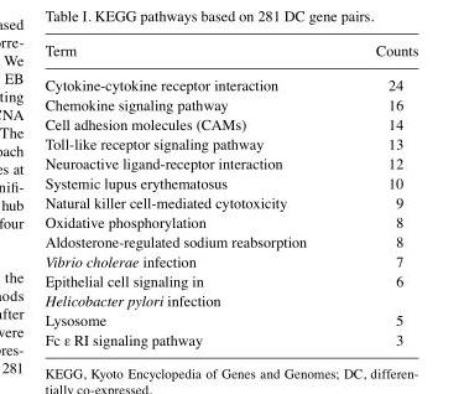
<table><thead><tr><td>Term</td><td>Counts</td></tr></thead><tbody><tr><td>Cytokine-cytokine receptor interaction</td><td>24</td></tr><tr><td>Chemokine signaling pathway</td><td>16</td></tr><tr><td>Cell adhesion molecules (CAMs)</td><td>14</td></tr><tr><td>Toll-like receptor signaling pathway</td><td>13</td></tr><tr><td>Neuroactive ligand-receptor interaction</td><td>12</td></tr><tr><td>Systemic lupus erythematosus</td><td>10</td></tr><tr><td>Natural killer cell-mediated cytotoxicity</td><td>9</td></tr><tr><td>Oxidative phosphorylation</td><td>8</td></tr><tr><td>Aldosterone-regulated sodium reabsorption</td><td>8</td></tr><tr><td>Vibrio cholerae infection</td><td>7</td></tr><tr><td>Epithelial cell signaling in Helicobacter pylori infection</td><td>6</td></tr><tr><td>Lysosome</td><td>5</td></tr><tr><td>Fc ε RI signaling pathway</td><td>3</td></tr></tbody></table>